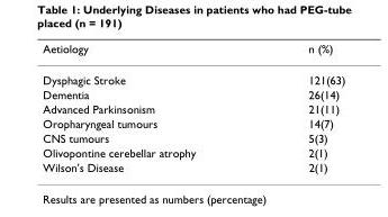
<table><thead><tr><td>Aetiology</td><td>n (%)</td></tr></thead><tbody><tr><td>Dysphagic Stroke</td><td>121(63)</td></tr><tr><td>Dementia</td><td>26(14)</td></tr><tr><td>Advanced Parkinsonism</td><td>21(11)</td></tr><tr><td>Oropharyngeal tumours</td><td>14(7)</td></tr><tr><td>CNS tumours</td><td>5(3)</td></tr><tr><td>Olivopontine cerebellar atrophy</td><td>2(1)</td></tr><tr><td>Wilson&#x27;s Disease</td><td>2(1)</td></tr></tbody></table>